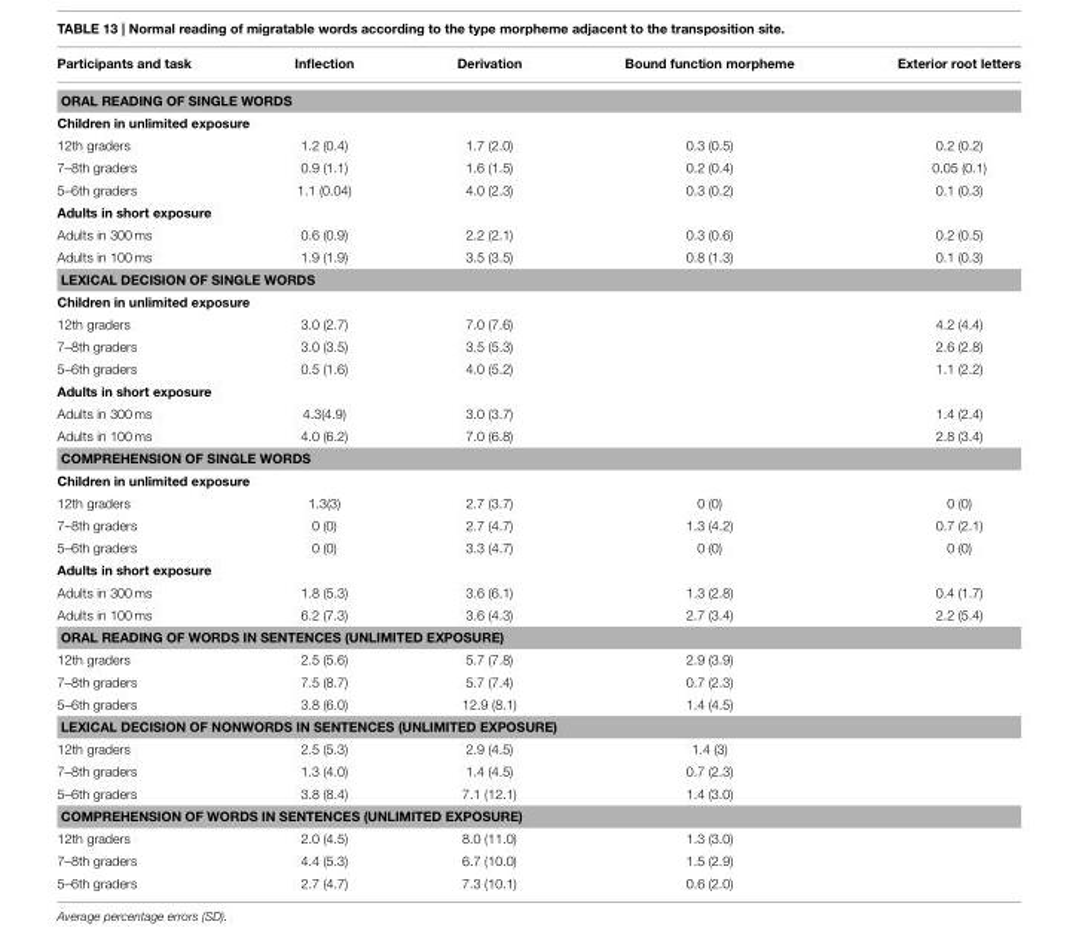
<table><thead><tr><td>Participants and task</td><td>Inflection</td><td>Derivation</td><td>Bound function morpheme</td><td>Exterior root letters</td></tr></thead><tbody><tr><td colspan="5">ORAL READING OF SINGLE WORDS</td></tr><tr><td colspan="5">Children in unlimited exposure</td></tr><tr><td>12th graders</td><td>1.2 (0.4)</td><td>1.7 (2.0)</td><td>0.3 (0.5)</td><td>0.2 (0.2)</td></tr><tr><td>7–8th graders</td><td>0.9 (1.1)</td><td>1.6 (1.5)</td><td>0.2 (0.4)</td><td>0.05 (0.1)</td></tr><tr><td>5–6th graders</td><td>1.1 (0.04)</td><td>4.0 (2.3)</td><td>0.3 (0.2)</td><td>0.1 (0.3)</td></tr><tr><td colspan="5">Adults in short exposure</td></tr><tr><td>Adults in 300 ms</td><td>0.6 (0.9)</td><td>2.2 (2.1)</td><td>0.3 (0.6)</td><td>0.2 (0.5)</td></tr><tr><td>Adults in 100 ms</td><td>1.9 (1.9)</td><td>3.5 (3.5)</td><td>0.8 (1.3)</td><td>0.1 (0.3)</td></tr><tr><td colspan="5">LEXICAL DECISION OF SINGLE WORDS</td></tr><tr><td colspan="5">Children in unlimited exposure</td></tr><tr><td>12th graders</td><td>3.0 (2.7)</td><td>7.0 (7.6)</td><td></td><td>4.2 (4.4)</td></tr><tr><td>7–8th graders</td><td>3.0 (3.5)</td><td>3.5 (5.3)</td><td></td><td>2.6 (2.8)</td></tr><tr><td>5–6th graders</td><td>0.5 (1.6)</td><td>4.0 (5.2)</td><td></td><td>1.1 (2.2)</td></tr><tr><td colspan="5">Adults in short exposure</td></tr><tr><td>Adults in 300 ms</td><td>4.3(4.9)</td><td>3.0 (3.7)</td><td></td><td>1.4 (2.4)</td></tr><tr><td>Adults in 100 ms</td><td>4.0 (6.2)</td><td>7.0 (6.8)</td><td></td><td>2.8 (3.4)</td></tr><tr><td colspan="5">COMPREHENSION OF SINGLE WORDS</td></tr><tr><td colspan="5">Children in unlimited exposure</td></tr><tr><td>12th graders</td><td>1.3(3)</td><td>2.7 (3.7)</td><td>0 (0)</td><td>0 (0)</td></tr><tr><td>7–8th graders</td><td>0 (0)</td><td>2.7 (4.7)</td><td>1.3 (4.2)</td><td>0.7 (2.1)</td></tr><tr><td>5–6th graders</td><td>0 (0)</td><td>3.3 (4.7)</td><td>0 (0)</td><td>0 (0)</td></tr><tr><td colspan="5">Adults in short exposure</td></tr><tr><td>Adults in 300 ms</td><td>1.8 (5.3)</td><td>3.6 (6.1)</td><td>1.3 (2.8)</td><td>0.4 (1.7)</td></tr><tr><td>Adults in 100 ms</td><td>6.2 (7.3)</td><td>3.6 (4.3)</td><td>2.7 (3.4)</td><td>2.2 (5.4)</td></tr><tr><td colspan="5">ORAL READING OF WORDS IN SENTENCES (UNLIMITED EXPOSURE)</td></tr><tr><td>12th graders</td><td>2.5 (5.6)</td><td>5.7 (7.8)</td><td>2.9 (3.9)</td><td></td></tr><tr><td>7–8th graders</td><td>7.5 (8.7)</td><td>5.7 (7.4)</td><td>0.7 (2.3)</td><td></td></tr><tr><td>5–6th graders</td><td>3.8 (6.0)</td><td>12.9 (8.1)</td><td>1.4 (4.5)</td><td></td></tr><tr><td colspan="5">LEXICAL DECISION OF NONWORDS IN SENTENCES (UNLIMITED EXPOSURE)</td></tr><tr><td>12th graders</td><td>2.5 (5.3)</td><td>2.9 (4.5)</td><td>1.4 (3)</td><td></td></tr><tr><td>7–8th graders</td><td>1.3 (4.0)</td><td>1.4 (4.5)</td><td>0.7 (2.3)</td><td></td></tr><tr><td>5–6th graders</td><td>3.8 (8.4)</td><td>7.1 (12.1)</td><td>1.4 (3.0)</td><td></td></tr><tr><td colspan="5">COMPREHENSION OF WORDS IN SENTENCES (UNLIMITED EXPOSURE)</td></tr><tr><td>12th graders</td><td>2.0 (4.5)</td><td>8.0 (11.0)</td><td>1.3 (3.0)</td><td></td></tr><tr><td>7–8th graders</td><td>4.4 (5.3)</td><td>6.7 (10.0)</td><td>1.5 (2.9)</td><td></td></tr><tr><td>5–6th graders</td><td>2.7 (4.7)</td><td>7.3 (10.1)</td><td>0.6 (2.0)</td><td></td></tr></tbody></table>